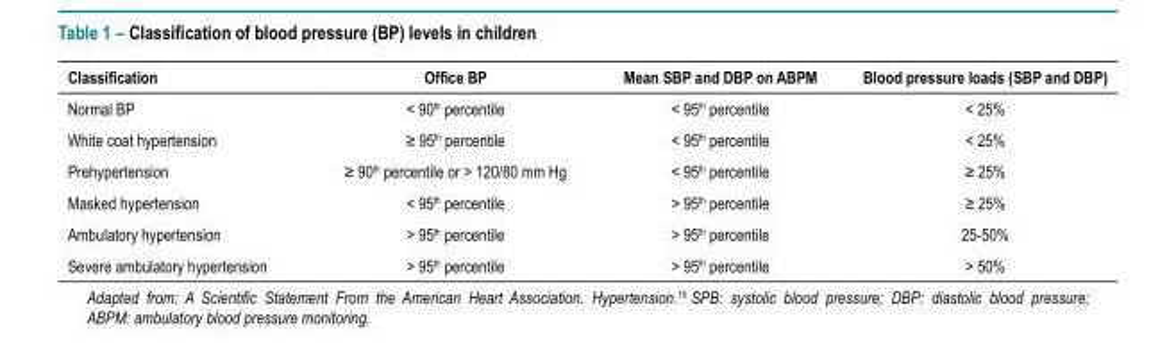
<table><thead><tr><td>Classification</td><td>Office BP</td><td>Mean SBP and DBP on ABPM</td><td>Blood pressure loads (SBP and DBP)</td></tr></thead><tbody><tr><td>Normal BP</td><td>&lt; 90<sup>th</sup> percentile</td><td>&lt; 95<sup>th</sup> percentile</td><td>&lt; 25%</td></tr><tr><td>White coat hypertension</td><td>≥ 95<sup>th</sup> percentile</td><td>&lt; 95<sup>th</sup> percentile</td><td>&lt; 25%</td></tr><tr><td>Prehypertension</td><td>≥ 90<sup>th</sup> percentile or &gt; 120/80 mm Hg</td><td>&lt; 95<sup>th</sup> percentile</td><td>≥ 25%</td></tr><tr><td>Masked hypertension</td><td>&lt; 95<sup>th</sup> percentile</td><td>&gt; 95<sup>th</sup> percentile</td><td>≥ 25%</td></tr><tr><td>Ambulatory hypertension</td><td>&gt; 95<sup>th</sup> percentile</td><td>&gt; 95<sup>th</sup> percentile</td><td>25-50%</td></tr><tr><td>Severe ambulatory hypertension</td><td>&gt; 95<sup>th</sup> percentile</td><td>&gt; 95<sup>th</sup> percentile</td><td>&gt; 50%</td></tr></tbody></table>